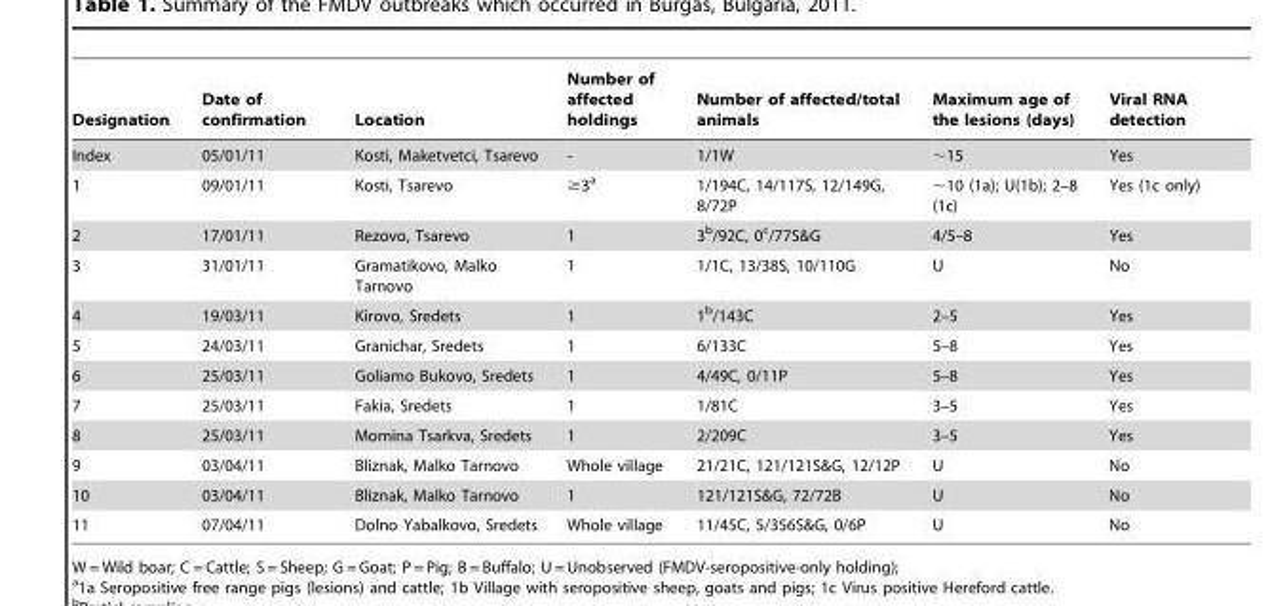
<table><thead><tr><td>Designation</td><td>Date of confirmation</td><td>Location</td><td>Number of affected holdings</td><td>Number of affected/total animals</td><td>Maximum age of the lesions (days)</td><td>Viral RNA detection</td></tr></thead><tbody><tr><td>Index</td><td>05/01/11</td><td>Kosti, Maketvetci, Tsarevo</td><td>-</td><td>1/1W</td><td>∼15</td><td>Yes</td></tr><tr><td>1</td><td>09/01/11</td><td>Kosti, Tsarevo</td><td>≥3<sup>a</sup></td><td>1/194C, 14/117S, 12/149G, 8/72P</td><td>∼10 (1a); U(1b); 2–8 (1c)</td><td>Yes (1c only)</td></tr><tr><td>2</td><td>17/01/11</td><td>Rezovo, Tsarevo</td><td>1</td><td>3<sup>b</sup>/92C, 0<sup>c</sup>/77S&amp;G</td><td>4/5–8</td><td>Yes</td></tr><tr><td>3</td><td>31/01/11</td><td>Gramatikovo, Malko Tarnovo</td><td>1</td><td>1/1C, 13/38S, 10/110G</td><td>U</td><td>No</td></tr><tr><td>4</td><td>19/03/11</td><td>Kirovo, Sredets</td><td>1</td><td>1<sup>b</sup>/143C</td><td>2–5</td><td>Yes</td></tr><tr><td>5</td><td>24/03/11</td><td>Granichar, Sredets</td><td>1</td><td>6/133C</td><td>5–8</td><td>Yes</td></tr><tr><td>6</td><td>25/03/11</td><td>Goliamo Bukovo, Sredets</td><td>1</td><td>4/49C, 0/11P</td><td>5–8</td><td>Yes</td></tr><tr><td>7</td><td>25/03/11</td><td>Fakia, Sredets</td><td>1</td><td>1/81C</td><td>3–5</td><td>Yes</td></tr><tr><td>8</td><td>25/03/11</td><td>Momina Tsarkva, Sredets</td><td>1</td><td>2/209C</td><td>3–5</td><td>Yes</td></tr><tr><td>9</td><td>03/04/11</td><td>Bliznak, Malko Tarnovo</td><td>Whole village</td><td>21/21C, 121/121S&amp;G, 12/12P</td><td>U</td><td>No</td></tr><tr><td>10</td><td>03/04/11</td><td>Bliznak, Malko Tarnovo</td><td>1</td><td>121/121S&amp;G, 72/72B</td><td>U</td><td>No</td></tr><tr><td>11</td><td>07/04/11</td><td>Dolno Yabalkovo, Sredets</td><td>Whole village</td><td>11/45C, 5/356S&amp;G, 0/6P</td><td>U</td><td>No</td></tr></tbody></table>